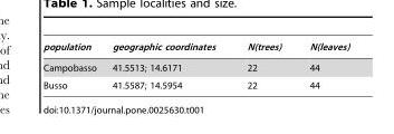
<table><thead><tr><td>population</td><td>geographic coordinates</td><td>N(trees)</td><td>N(leaves)</td></tr></thead><tbody><tr><td>Campobasso</td><td>41.5513; 14.6171</td><td>22</td><td>44</td></tr><tr><td>Busso</td><td>41.5587; 14.5954</td><td>22</td><td>44</td></tr></tbody></table>